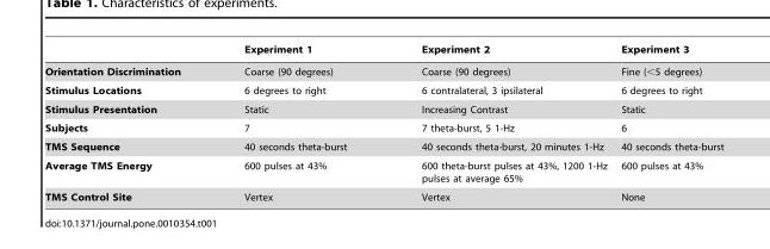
<table><thead><tr><td></td><td>Experiment 1</td><td>Experiment 2</td><td>Experiment 3</td></tr></thead><tbody><tr><td>Orientation Discrimination</td><td>Coarse (90 degrees)</td><td>Coarse (90 degrees)</td><td>Fine (&lt;5 degrees)</td></tr><tr><td>Stimulus Locations</td><td>6 degrees to right</td><td>6 contralateral, 3 ipsilateral</td><td>6 degrees to right</td></tr><tr><td>Stimulus Presentation</td><td>Static</td><td>Increasing Contrast</td><td>Static</td></tr><tr><td>Subjects</td><td>7</td><td>7 theta-burst, 5 1-Hz</td><td>6</td></tr><tr><td>TMS Sequence</td><td>40 seconds theta-burst</td><td>40 seconds theta-burst, 20 minutes 1-Hz</td><td>40 seconds theta-burst</td></tr><tr><td>Average TMS Energy</td><td>600 pulses at 43%</td><td>600 theta-burst pulses at 43%, 1200 1-Hz pulses at average 65%</td><td>600 pulses at 43%</td></tr><tr><td>TMS Control Site</td><td>Vertex</td><td>Vertex</td><td>None</td></tr></tbody></table>